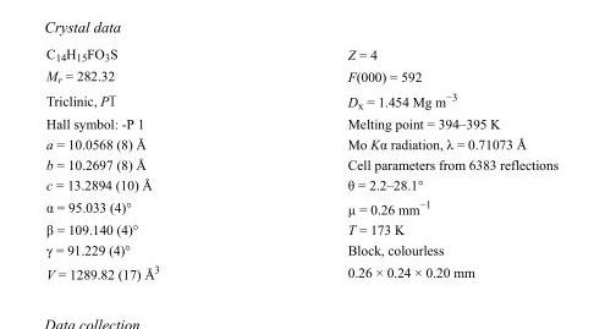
<table><tbody><tr><td>C<sub>14</sub>H<sub>15</sub>FO<sub>3</sub>S</td><td>Z = 4</td></tr><tr><td>M<sub>r</sub> = 282.32</td><td>F(000) = 592</td></tr><tr><td>Triclinic, P1</td><td>D<sub>x</sub> = 1.454 Mg m<sup>−3</sup></td></tr><tr><td>Hall symbol: -P 1</td><td>Melting point = 394–395 K</td></tr><tr><td>a = 10.0568 (8) Å</td><td>Mo Kα radiation, λ = 0.71073 Å</td></tr><tr><td>b = 10.2697 (8) Å</td><td>Cell parameters from 6383 reflections</td></tr><tr><td>c = 13.2894 (10) Å</td><td>θ = 2.2–28.1°</td></tr><tr><td>α = 95.033 (4)°</td><td>µ = 0.26 mm<sup>−1</sup></td></tr><tr><td>β = 109.140 (4)°</td><td>T = 173 K</td></tr><tr><td>γ = 91.229 (4)°</td><td>Block, colourless</td></tr><tr><td>V = 1289.82 (17) Å<sup>3</sup></td><td>0.26 × 0.24 × 0.20 mm</td></tr></tbody></table>